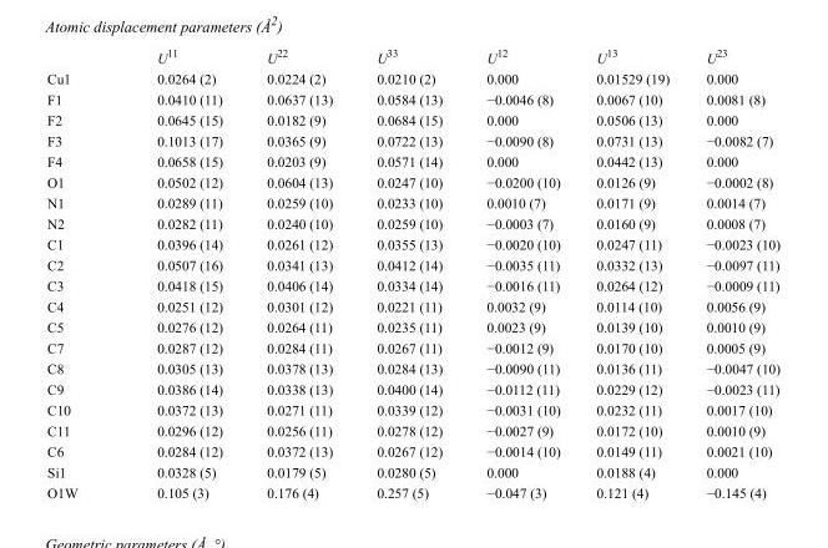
<table><thead><tr><td></td><td>U<sup>11</sup></td><td>U<sup>22</sup></td><td>U<sup>33</sup></td><td>U<sup>12</sup></td><td>U<sup>13</sup></td><td>U<sup>23</sup></td></tr></thead><tbody><tr><td>Cu1</td><td>0.0264 (2)</td><td>0.0224 (2)</td><td>0.0210 (2)</td><td>0.000</td><td>0.01529 (19)</td><td>0.000</td></tr><tr><td>F1</td><td>0.0410 (11)</td><td>0.0637 (13)</td><td>0.0584 (13)</td><td>−0.0046 (8)</td><td>0.0067 (10)</td><td>0.0081 (8)</td></tr><tr><td>F2</td><td>0.0645 (15)</td><td>0.0182 (9)</td><td>0.0684 (15)</td><td>0.000</td><td>0.0506 (13)</td><td>0.000</td></tr><tr><td>F3</td><td>0.1013 (17)</td><td>0.0365 (9)</td><td>0.0722 (13)</td><td>−0.0090 (8)</td><td>0.0731 (13)</td><td>−0.0082 (7)</td></tr><tr><td>F4</td><td>0.0658 (15)</td><td>0.0203 (9)</td><td>0.0571 (14)</td><td>0.000</td><td>0.0442 (13)</td><td>0.000</td></tr><tr><td>O1</td><td>0.0502 (12)</td><td>0.0604 (13)</td><td>0.0247 (10)</td><td>−0.0200 (10)</td><td>0.0126 (9)</td><td>−0.0002 (8)</td></tr><tr><td>N1</td><td>0.0289 (11)</td><td>0.0259 (10)</td><td>0.0233 (10)</td><td>0.0010 (7)</td><td>0.0171 (9)</td><td>0.0014 (7)</td></tr><tr><td>N2</td><td>0.0282 (11)</td><td>0.0240 (10)</td><td>0.0259 (10)</td><td>−0.0003 (7)</td><td>0.0160 (9)</td><td>0.0008 (7)</td></tr><tr><td>C1</td><td>0.0396 (14)</td><td>0.0261 (12)</td><td>0.0355 (13)</td><td>−0.0020 (10)</td><td>0.0247 (11)</td><td>−0.0023 (10)</td></tr><tr><td>C2</td><td>0.0507 (16)</td><td>0.0341 (13)</td><td>0.0412 (14)</td><td>−0.0035 (11)</td><td>0.0332 (13)</td><td>−0.0097 (11)</td></tr><tr><td>C3</td><td>0.0418 (15)</td><td>0.0406 (14)</td><td>0.0334 (14)</td><td>−0.0016 (11)</td><td>0.0264 (12)</td><td>−0.0009 (11)</td></tr><tr><td>C4</td><td>0.0251 (12)</td><td>0.0301 (12)</td><td>0.0221 (11)</td><td>0.0032 (9)</td><td>0.0114 (10)</td><td>0.0056 (9)</td></tr><tr><td>C5</td><td>0.0276 (12)</td><td>0.0264 (11)</td><td>0.0235 (11)</td><td>0.0023 (9)</td><td>0.0139 (10)</td><td>0.0010 (9)</td></tr><tr><td>C7</td><td>0.0287 (12)</td><td>0.0284 (11)</td><td>0.0267 (11)</td><td>−0.0012 (9)</td><td>0.0170 (10)</td><td>0.0005 (9)</td></tr><tr><td>C8</td><td>0.0305 (13)</td><td>0.0378 (13)</td><td>0.0284 (13)</td><td>−0.0090 (11)</td><td>0.0136 (11)</td><td>−0.0047 (10)</td></tr><tr><td>C9</td><td>0.0386 (14)</td><td>0.0338 (13)</td><td>0.0400 (14)</td><td>−0.0112 (11)</td><td>0.0229 (12)</td><td>−0.0023 (11)</td></tr><tr><td>C10</td><td>0.0372 (13)</td><td>0.0271 (11)</td><td>0.0339 (12)</td><td>−0.0031 (10)</td><td>0.0232 (11)</td><td>0.0017 (10)</td></tr><tr><td>C11</td><td>0.0296 (12)</td><td>0.0256 (11)</td><td>0.0278 (12)</td><td>−0.0027 (9)</td><td>0.0172 (10)</td><td>0.0010 (9)</td></tr><tr><td>C6</td><td>0.0284 (12)</td><td>0.0372 (13)</td><td>0.0267 (12)</td><td>−0.0014 (10)</td><td>0.0149 (11)</td><td>0.0021 (10)</td></tr><tr><td>Si1</td><td>0.0328 (5)</td><td>0.0179 (5)</td><td>0.0280 (5)</td><td>0.000</td><td>0.0188 (4)</td><td>0.000</td></tr><tr><td>O1W</td><td>0.105 (3)</td><td>0.176 (4)</td><td>0.257 (5)</td><td>−0.047 (3)</td><td>0.121 (4)</td><td>−0.145 (4)</td></tr></tbody></table>